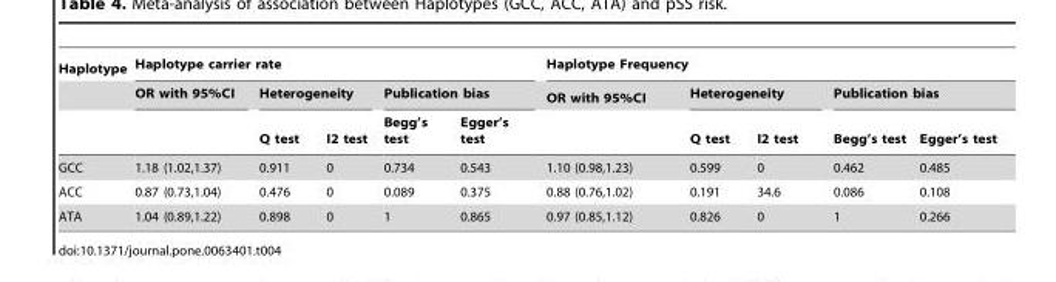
<table><thead><tr><td rowspan="3">Haplotype</td><td colspan="5">Haplotype carrier rate</td><td colspan="5">Haplotype Frequency</td></tr><tr><td rowspan="2">OR with 95%CI</td><td colspan="2">Heterogeneity</td><td colspan="2">Publication bias</td><td rowspan="2">OR with 95%CI</td><td colspan="2">Heterogeneity</td><td colspan="2">Publication bias</td></tr><tr><td>Q test</td><td>I2 test</td><td>Begg’s test</td><td>Egger’s test</td><td>Q test</td><td>I2 test</td><td>Begg’s test</td><td>Egger’s test</td></tr></thead><tbody><tr><td>GCC</td><td>1.18 (1.02,1.37)</td><td>0.911</td><td>0</td><td>0.734</td><td>0.543</td><td>1.10 (0.98,1.23)</td><td>0.599</td><td>0</td><td>0.462</td><td>0.485</td></tr><tr><td>ACC</td><td>0.87 (0.73,1.04)</td><td>0.476</td><td>0</td><td>0.089</td><td>0.375</td><td>0.88 (0.76,1.02)</td><td>0.191</td><td>34.6</td><td>0.086</td><td>0.108</td></tr><tr><td>ATA</td><td>1.04 (0.89,1.22)</td><td>0.898</td><td>0</td><td>1</td><td>0.865</td><td>0.97 (0.85,1.12)</td><td>0.826</td><td>0</td><td>1</td><td>0.266</td></tr></tbody></table>